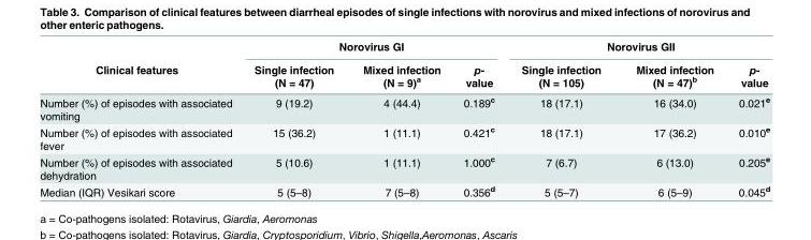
<table><thead><tr><td rowspan="2">Clinical features</td><td colspan="3">Norovirus GI</td><td colspan="3">Norovirus GII</td></tr><tr><td>Single infection (N = 47)</td><td>Mixed infection (N = 9)<sup>a</sup></td><td>p- value</td><td>Single infection (N = 105)</td><td>Mixed infection (N = 47)<sup>b</sup></td><td>p- value</td></tr></thead><tbody><tr><td>Number (%) of episodes with associated vomiting</td><td>9 (19.2)</td><td>4 (44.4)</td><td>0.189<sup>c</sup></td><td>18 (17.1)</td><td>16 (34.0)</td><td>0.021<sup>e</sup></td></tr><tr><td>Number (%) of episodes with associated fever</td><td>15 (36.2)</td><td>1 (11.1)</td><td>0.421<sup>c</sup></td><td>18 (17.1)</td><td>17 (36.2)</td><td>0.010<sup>e</sup></td></tr><tr><td>Number (%) of episodes with associated dehydration</td><td>5 (10.6)</td><td>1 (11.1)</td><td>1.000<sup>c</sup></td><td>7 (6.7)</td><td>6 (13.0)</td><td>0.205<sup>e</sup></td></tr><tr><td>Median (IQR) Vesikari score</td><td>5 (5–8)</td><td>7 (5–8)</td><td>0.356<sup>d</sup></td><td>5 (5–7)</td><td>6 (5–9)</td><td>0.045<sup>d</sup></td></tr></tbody></table>